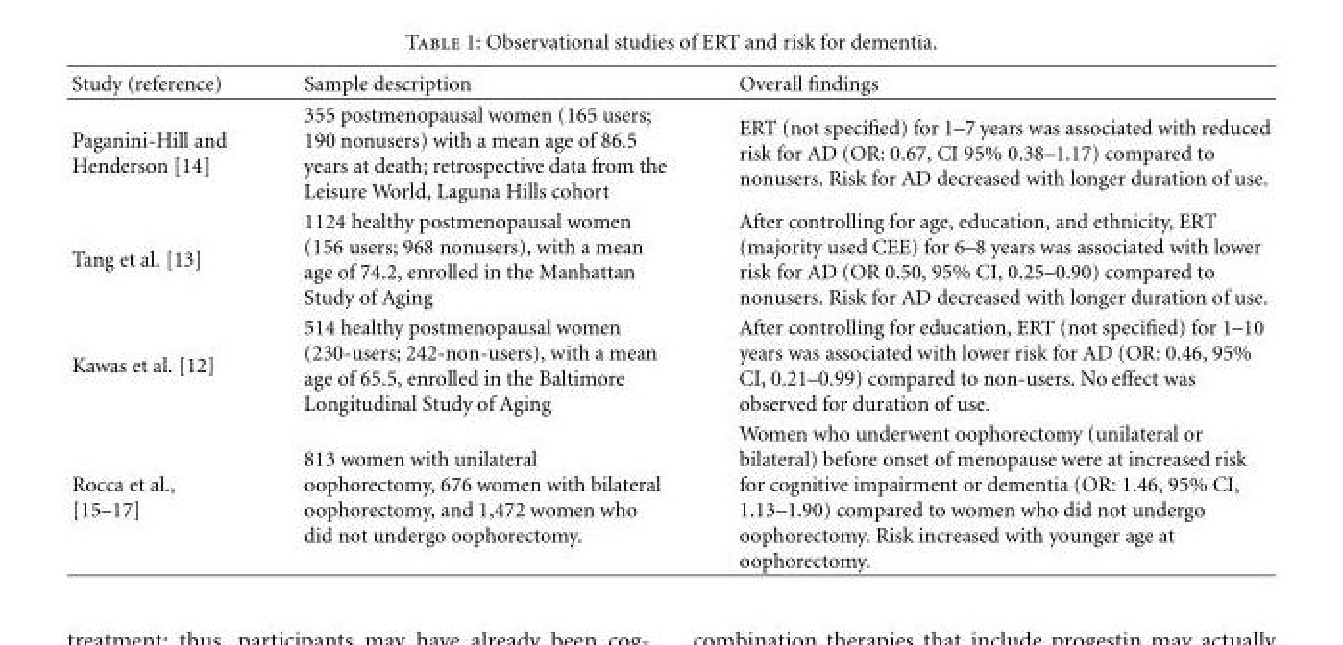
<table><thead><tr><td>Study (reference)</td><td>Sample description</td><td>Overall findings</td></tr></thead><tbody><tr><td>Paganini-Hill and Henderson [14]</td><td>355 postmenopausal women (165 users; 190 nonusers) with a mean age of 86.5 years at death; retrospective data from the Leisure World, Laguna Hills cohort</td><td>ERT (not specified) for 1–7 years was associated with reduced risk for AD (OR: 0.67, CI 95% 0.38–1.17) compared to nonusers. Risk for AD decreased with longer duration of use.</td></tr><tr><td>Tang et al. [13]</td><td>1124 healthy postmenopausal women (156 users; 968 nonusers), with a mean age of 74.2, enrolled in the Manhattan Study of Aging</td><td>After controlling for age, education, and ethnicity, ERT (majority used CEE) for 6–8 years was associated with lower risk for AD (OR 0.50, 95% CI, 0.25–0.90) compared to nonusers. Risk for AD decreased with longer duration of use.</td></tr><tr><td>Kawas et al. [12]</td><td>514 healthy postmenopausal women (230-users; 242-non-users), with a mean age of 65.5, enrolled in the Baltimore Longitudinal Study of Aging</td><td>After controlling for education, ERT (not specified) for 1–10 years was associated with lower risk for AD (OR: 0.46, 95% CI, 0.21–0.99) compared to non-users. No effect was observed for duration of use.</td></tr><tr><td>Rocca et al., [15–17]</td><td>813 women with unilateral oophorectomy, 676 women with bilateral oophorectomy, and 1,472 women who did not undergo oophorectomy.</td><td>Women who underwent oophorectomy (unilateral or bilateral) before onset of menopause were at increased risk for cognitive impairment or dementia (OR: 1.46, 95% CI, 1.13–1.90) compared to women who did not undergo oophorectomy. Risk increased with younger age at oophorectomy.</td></tr></tbody></table>